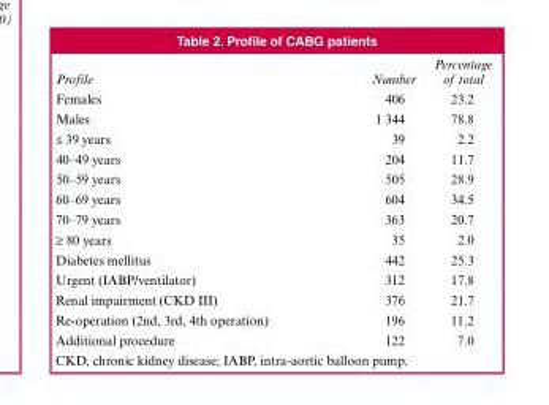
<table><thead><tr><td>Profile</td><td>Number</td><td>Percentage of total</td></tr></thead><tbody><tr><td>Females</td><td>406</td><td>23.2</td></tr><tr><td>Males</td><td>1 344</td><td>78.8</td></tr><tr><td>≤ 39 years</td><td>39</td><td>2.2</td></tr><tr><td>40–49 years</td><td>204</td><td>11.7</td></tr><tr><td>50–59 years</td><td>505</td><td>28.9</td></tr><tr><td>60–69 years</td><td>604</td><td>34.5</td></tr><tr><td>70–79 years</td><td>363</td><td>20.7</td></tr><tr><td>≥ 80 years</td><td>35</td><td>2.0</td></tr><tr><td>Diabetes mellitus</td><td>442</td><td>25.3</td></tr><tr><td>Urgent (IABP/ventilator)</td><td>312</td><td>17.8</td></tr><tr><td>Renal impairment (CKD III)</td><td>376</td><td>21.7</td></tr><tr><td>Re-operation (2nd, 3rd, 4th operation)</td><td>196</td><td>11.2</td></tr><tr><td>Additional procedure</td><td>122</td><td>7.0</td></tr></tbody></table>